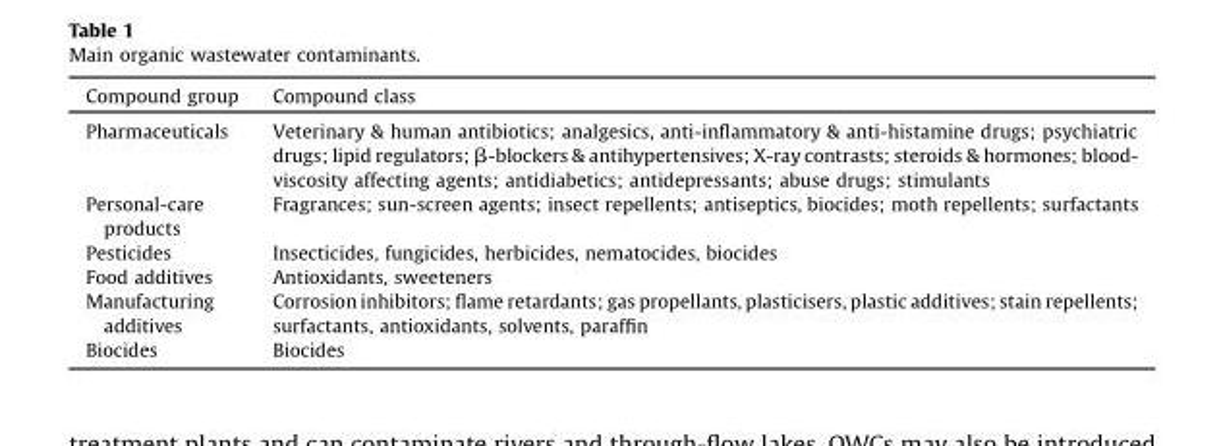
<table><thead><tr><td>Compound group</td><td>Compound class</td></tr></thead><tbody><tr><td>Pharmaceuticals</td><td>Veterinary &amp; human antibiotics; analgesics, anti-inflammatory &amp; anti-histamine drugs; psychiatric drugs; lipid regulators; β-blockers &amp; antihypertensives; X-ray contrasts; steroids &amp; hormones; blood- viscosity affecting agents; antidiabetics; antidepressants; abuse drugs; stimulants</td></tr><tr><td>Personal-care products</td><td>Fragrances; sun-screen agents; insect repellents; antiseptics, biocides; moth repellents; surfactants</td></tr><tr><td>Pesticides</td><td>Insecticides, fungicides, herbicides, nematocides, biocides</td></tr><tr><td>Food additives</td><td>Antioxidants, sweeteners</td></tr><tr><td>Manufacturing additives</td><td>Corrosion inhibitors; flame retardants; gas propellants, plasticisers, plastic additives; stain repellents; surfactants, antioxidants, solvents, paraffin</td></tr><tr><td>Biocides</td><td>Biocides</td></tr></tbody></table>